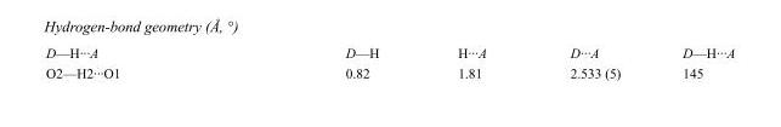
<table><tbody><tr><td>D—H···A</td><td>D—H</td><td>H···A</td><td>D···A</td><td>D—H···A</td></tr><tr><td>O2—H2···O1</td><td>0.82</td><td>1.81</td><td>2.533 (5)</td><td>145</td></tr></tbody></table>